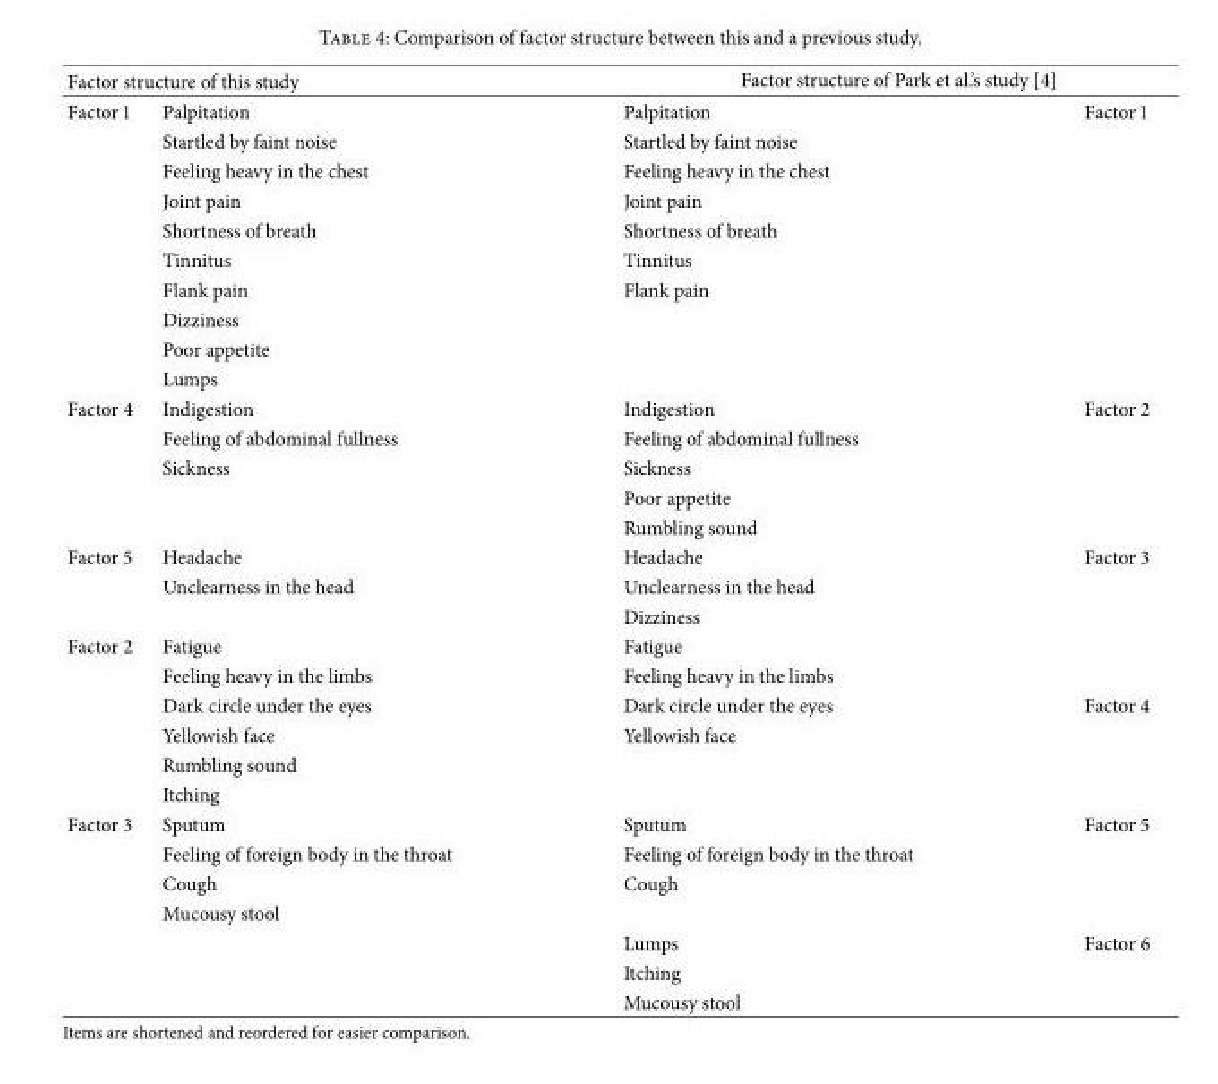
<table><thead><tr><td colspan="2">Factor structure of this study</td><td colspan="2">Factor structure of Park et al.’s study [4]</td></tr><tr><td>Factor 1</td><td>Palpitation</td><td>Palpitation</td><td>Factor 1</td></tr></thead><tbody><tr><td></td><td>Startled by faint noise</td><td>Startled by faint noise</td><td></td></tr><tr><td></td><td>Feeling heavy in the chest</td><td>Feeling heavy in the chest</td><td></td></tr><tr><td></td><td>Joint pain</td><td>Joint pain</td><td></td></tr><tr><td></td><td>Shortness of breath</td><td>Shortness of breath</td><td></td></tr><tr><td></td><td>Tinnitus</td><td>Tinnitus</td><td></td></tr><tr><td></td><td>Flank pain</td><td>Flank pain</td><td></td></tr><tr><td></td><td>Dizziness</td><td></td><td></td></tr><tr><td></td><td>Poor appetite</td><td></td><td></td></tr><tr><td></td><td>Lumps</td><td></td><td></td></tr><tr><td rowspan="5">Factor 4</td><td>Indigestion</td><td>Indigestion</td><td>Factor 2</td></tr><tr><td>Feeling of abdominal fullness</td><td>Feeling of abdominal fullness</td><td></td></tr><tr><td>Sickness</td><td>Sickness</td><td></td></tr><tr><td></td><td>Poor appetite</td><td></td></tr><tr><td></td><td>Rumbling sound</td><td></td></tr><tr><td rowspan="3">Factor 5</td><td>Headache</td><td>Headache</td><td>Factor 3</td></tr><tr><td>Unclearness in the head</td><td>Unclearness in the head</td><td></td></tr><tr><td></td><td>Dizziness</td><td></td></tr><tr><td rowspan="6">Factor 2</td><td>Fatigue</td><td>Fatigue</td><td></td></tr><tr><td>Feeling heavy in the limbs</td><td>Feeling heavy in the limbs</td><td></td></tr><tr><td>Dark circle under the eyes</td><td>Dark circle under the eyes</td><td>Factor 4</td></tr><tr><td>Yellowish face</td><td>Yellowish face</td><td></td></tr><tr><td>Rumbling sound</td><td></td><td></td></tr><tr><td>Itching</td><td></td><td></td></tr><tr><td rowspan="7">Factor 3</td><td>Sputum</td><td>Sputum</td><td>Factor 5</td></tr><tr><td>Feeling of foreign body in the throat</td><td>Feeling of foreign body in the throat</td><td></td></tr><tr><td>Cough</td><td>Cough</td><td></td></tr><tr><td>Mucousy stool</td><td></td><td></td></tr><tr><td></td><td>Lumps</td><td>Factor 6</td></tr><tr><td></td><td>Itching</td><td></td></tr><tr><td></td><td>Mucousy stool</td><td></td></tr></tbody></table>